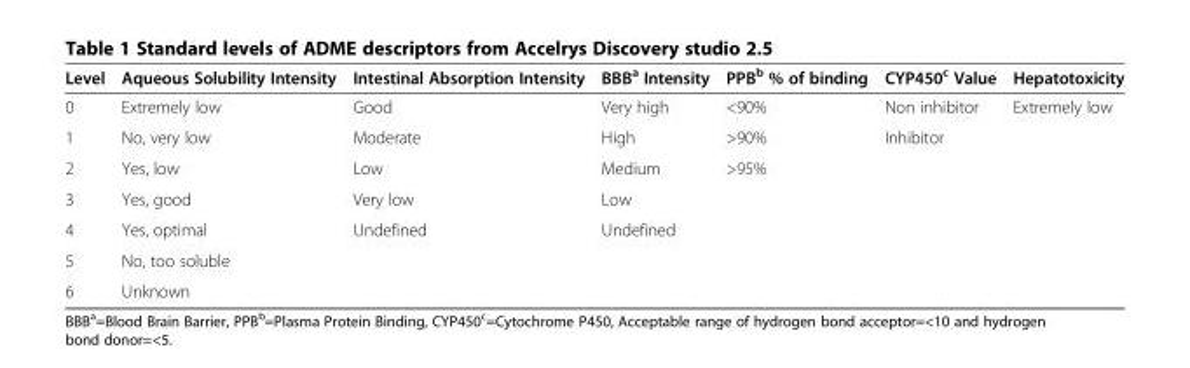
<table><thead><tr><td>Level</td><td>Aqueous Solubility Intensity</td><td>Intestinal Absorption Intensity</td><td>BBB<sup>a</sup> Intensity</td><td>PPB<sup>b</sup> % of binding</td><td>CYP450<sup>c</sup> Value</td><td>Hepatotoxicity</td></tr></thead><tbody><tr><td>0</td><td>Extremely low</td><td>Good</td><td>Very high</td><td>&lt;90%</td><td>Non inhibitor</td><td>Extremely low</td></tr><tr><td>1</td><td>No, very low</td><td>Moderate</td><td>High</td><td>&gt;90%</td><td>Inhibitor</td><td></td></tr><tr><td>2</td><td>Yes, low</td><td>Low</td><td>Medium</td><td>&gt;95%</td><td></td><td></td></tr><tr><td>3</td><td>Yes, good</td><td>Very low</td><td>Low</td><td></td><td></td><td></td></tr><tr><td>4</td><td>Yes, optimal</td><td>Undefined</td><td>Undefined</td><td></td><td></td><td></td></tr><tr><td>5</td><td>No, too soluble</td><td></td><td></td><td></td><td></td><td></td></tr><tr><td>6</td><td>Unknown</td><td></td><td></td><td></td><td></td><td></td></tr></tbody></table>